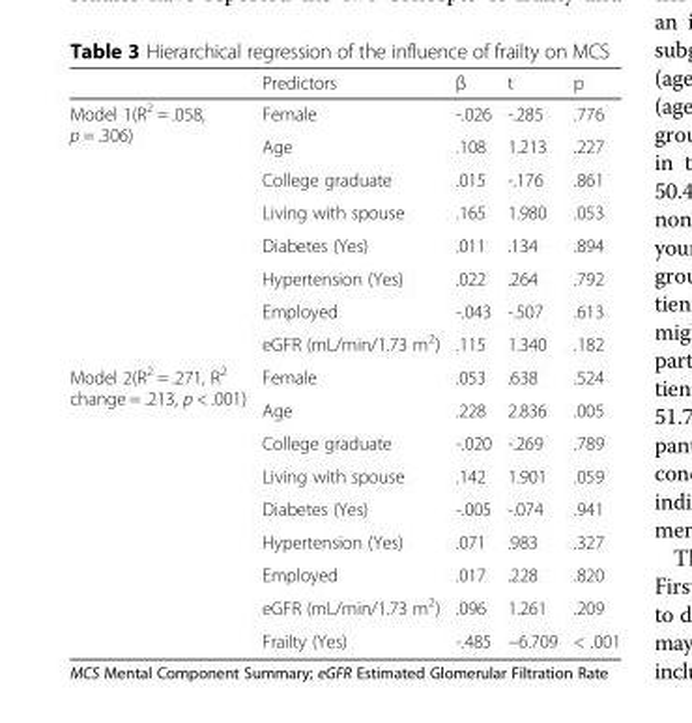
<table><thead><tr><td></td><td>Predictors</td><td>β</td><td>t</td><td>p</td></tr></thead><tbody><tr><td rowspan="8">Model 1(R<sup>2</sup> = .058, p = .306)</td><td>Female</td><td>-.026</td><td>-.285</td><td>.776</td></tr><tr><td>Age</td><td>.108</td><td>1.213</td><td>.227</td></tr><tr><td>College graduate</td><td>.015</td><td>-.176</td><td>.861</td></tr><tr><td>Living with spouse</td><td>.165</td><td>1.980</td><td>.053</td></tr><tr><td>Diabetes (Yes)</td><td>.011</td><td>.134</td><td>.894</td></tr><tr><td>Hypertension (Yes)</td><td>.022</td><td>.264</td><td>.792</td></tr><tr><td>Employed</td><td>-.043</td><td>-.507</td><td>.613</td></tr><tr><td>eGFR (mL/min/1.73 m<sup>2</sup>)</td><td>.115</td><td>1.340</td><td>.182</td></tr><tr><td rowspan="9">Model 2(R<sup>2</sup> = .271, R<sup>2</sup> change = .213, p &lt; .001)</td><td>Female</td><td>.053</td><td>.638</td><td>.524</td></tr><tr><td>Age</td><td>.228</td><td>2.836</td><td>.005</td></tr><tr><td>College graduate</td><td>-.020</td><td>-.269</td><td>.789</td></tr><tr><td>Living with spouse</td><td>.142</td><td>1.901</td><td>.059</td></tr><tr><td>Diabetes (Yes)</td><td>-.005</td><td>-.074</td><td>.941</td></tr><tr><td>Hypertension (Yes)</td><td>.071</td><td>.983</td><td>.327</td></tr><tr><td>Employed</td><td>.017</td><td>.228</td><td>.820</td></tr><tr><td>eGFR (mL/min/1.73 m<sup>2</sup>)</td><td>.096</td><td>1.261</td><td>.209</td></tr><tr><td>Frailty (Yes)</td><td>-.485</td><td>−6.709</td><td>&lt; .001</td></tr></tbody></table>